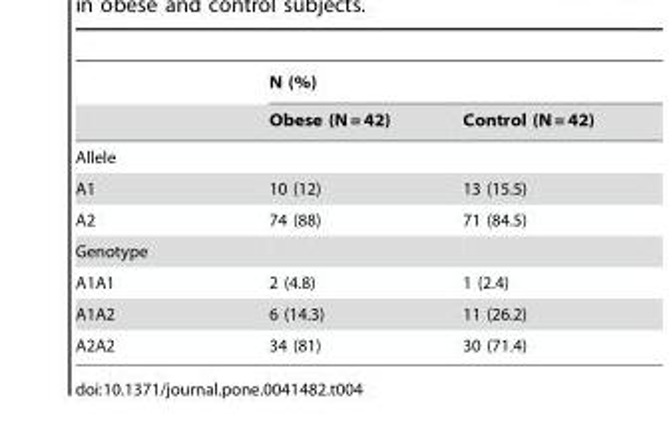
<table><thead><tr><td rowspan="2"></td><td colspan="2">N (%)</td></tr><tr><td>Obese (N = 42)</td><td>Control (N = 42)</td></tr></thead><tbody><tr><td colspan="3">Allele</td></tr><tr><td>A1</td><td>10 (12)</td><td>13 (15.5)</td></tr><tr><td>A2</td><td>74 (88)</td><td>71 (84.5)</td></tr><tr><td colspan="3">Genotype</td></tr><tr><td>A1A1</td><td>2 (4.8)</td><td>1 (2.4)</td></tr><tr><td>A1A2</td><td>6 (14.3)</td><td>11 (26.2)</td></tr><tr><td>A2A2</td><td>34 (81)</td><td>30 (71.4)</td></tr></tbody></table>